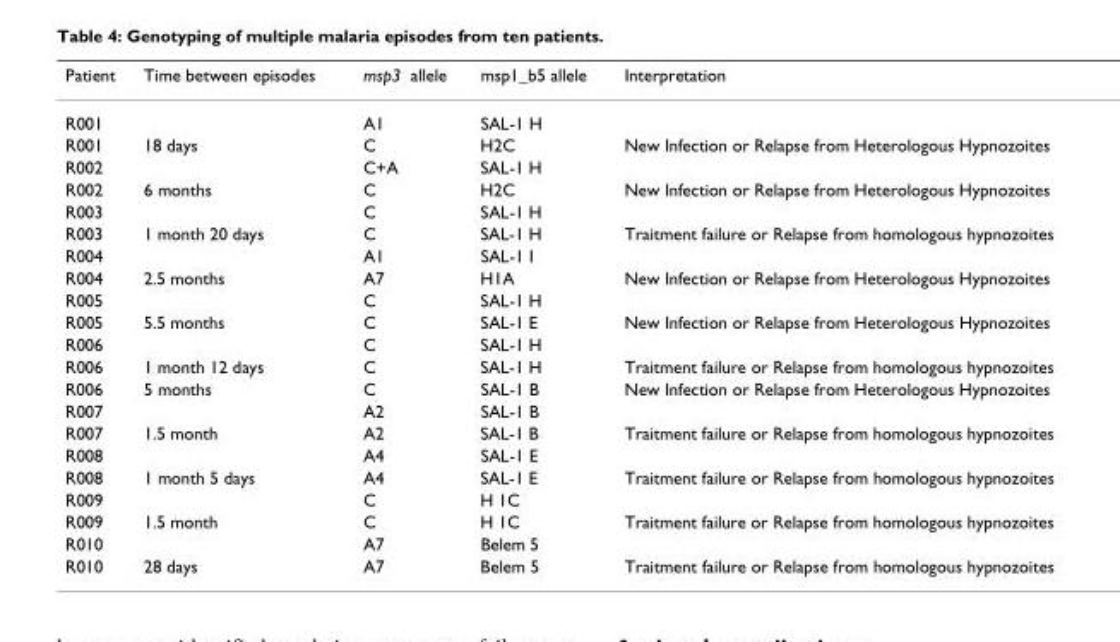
<table><thead><tr><td>Patient</td><td>Time between episodes</td><td>msp3 allele</td><td>msp1_b5 allele</td><td>Interpretation</td></tr></thead><tbody><tr><td>R001</td><td></td><td>A1</td><td>SAL-1 H</td><td></td></tr><tr><td>R001</td><td>18 days</td><td>C</td><td>H2C</td><td>New Infection or Relapse from Heterologous Hypnozoites</td></tr><tr><td>R002</td><td></td><td>C+A</td><td>SAL-1 H</td><td></td></tr><tr><td>R002</td><td>6 months</td><td>C</td><td>H2C</td><td>New Infection or Relapse from Heterologous Hypnozoites</td></tr><tr><td>R003</td><td></td><td>C</td><td>SAL-1 H</td><td></td></tr><tr><td>R003</td><td>1 month 20 days</td><td>C</td><td>SAL-1 H</td><td>Traitment failure or Relapse from homologous hypnozoites</td></tr><tr><td>R004</td><td></td><td>A1</td><td>SAL-1 I</td><td></td></tr><tr><td>R004</td><td>2.5 months</td><td>A7</td><td>H1A</td><td>New Infection or Relapse from Heterologous Hypnozoites</td></tr><tr><td>R005</td><td></td><td>C</td><td>SAL-1 H</td><td></td></tr><tr><td>R005</td><td>5.5 months</td><td>C</td><td>SAL-1 E</td><td>New Infection or Relapse from Heterologous Hypnozoites</td></tr><tr><td>R006</td><td></td><td>C</td><td>SAL-1 H</td><td></td></tr><tr><td>R006</td><td>1 month 12 days</td><td>C</td><td>SAL-1 H</td><td>Traitment failure or Relapse from homologous hypnozoites</td></tr><tr><td>R006</td><td>5 months</td><td>C</td><td>SAL-1 B</td><td>New Infection or Relapse from Heterologous Hypnozoites</td></tr><tr><td>R007</td><td></td><td>A2</td><td>SAL-1 B</td><td></td></tr><tr><td>R007</td><td>1.5 month</td><td>A2</td><td>SAL-1 B</td><td>Traitment failure or Relapse from homologous hypnozoites</td></tr><tr><td>R008</td><td></td><td>A4</td><td>SAL-1 E</td><td></td></tr><tr><td>R008</td><td>1 month 5 days</td><td>A4</td><td>SAL-1 E</td><td>Traitment failure or Relapse from homologous hypnozoites</td></tr><tr><td>R009</td><td></td><td>C</td><td>H 1C</td><td></td></tr><tr><td>R009</td><td>1.5 month</td><td>C</td><td>H 1C</td><td>Traitment failure or Relapse from homologous hypnozoites</td></tr><tr><td>R010</td><td></td><td>A7</td><td>Belem 5</td><td></td></tr><tr><td>R010</td><td>28 days</td><td>A7</td><td>Belem 5</td><td>Traitment failure or Relapse from homologous hypnozoites</td></tr></tbody></table>